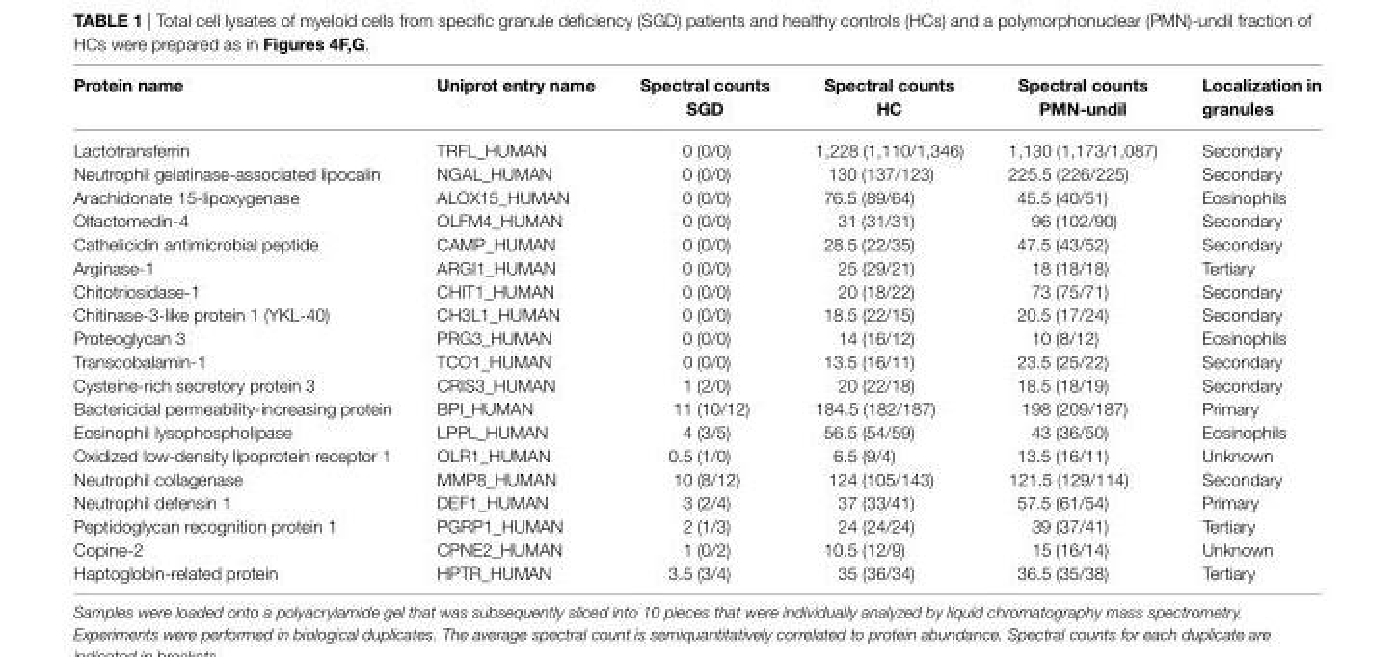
<table><thead><tr><td>Protein name</td><td>Uniprot entry name</td><td>spectral counts sgD</td><td>spectral counts hc</td><td>spectral counts PMn-undil</td><td>localization in granules</td></tr></thead><tbody><tr><td>Lactotransferrin</td><td>TRFL_HUMAN</td><td>0 (0/0)</td><td>1,228 (1,110/1,346)</td><td>1,130 (1,173/1,087)</td><td>Secondary</td></tr><tr><td>Neutrophil gelatinase-associated lipocalin</td><td>NGAL_HUMAN</td><td>0 (0/0)</td><td>130 (137/123)</td><td>225.5 (226/225)</td><td>Secondary</td></tr><tr><td>Arachidonate 15-lipoxygenase</td><td>ALOX15_HUMAN</td><td>0 (0/0)</td><td>76.5 (89/64)</td><td>45.5 (40/51)</td><td>Eosinophils</td></tr><tr><td>Olfactomedin-4</td><td>OLFM4_HUMAN</td><td>0 (0/0)</td><td>31 (31/31)</td><td>96 (102/90)</td><td>Secondary</td></tr><tr><td>Cathelicidin antimicrobial peptide</td><td>CAMP_HUMAN</td><td>0 (0/0)</td><td>28.5 (22/35)</td><td>47.5 (43/52)</td><td>Secondary</td></tr><tr><td>Arginase-1</td><td>ARGI1_HUMAN</td><td>0 (0/0)</td><td>25 (29/21)</td><td>18 (18/18)</td><td>Tertiary</td></tr><tr><td>Chitotriosidase-1</td><td>CHIT1_HUMAN</td><td>0 (0/0)</td><td>20 (18/22)</td><td>73 (75/71)</td><td>Secondary</td></tr><tr><td>Chitinase-3-like protein 1 (YKL-40)</td><td>CH3L1_HUMAN</td><td>0 (0/0)</td><td>18.5 (22/15)</td><td>20.5 (17/24)</td><td>Secondary</td></tr><tr><td>Proteoglycan 3</td><td>PRG3_HUMAN</td><td>0 (0/0)</td><td>14 (16/12)</td><td>10 (8/12)</td><td>Eosinophils</td></tr><tr><td>Transcobalamin-1</td><td>TCO1_HUMAN</td><td>0 (0/0)</td><td>13.5 (16/11)</td><td>23.5 (25/22)</td><td>Secondary</td></tr><tr><td>Cysteine-rich secretory protein 3</td><td>CRIS3_HUMAN</td><td>1 (2/0)</td><td>20 (22/18)</td><td>18.5 (18/19)</td><td>Secondary</td></tr><tr><td>Bactericidal permeability-increasing protein</td><td>BPI_HUMAN</td><td>11 (10/12)</td><td>184.5 (182/187)</td><td>198 (209/187)</td><td>Primary</td></tr><tr><td>Eosinophil lysophospholipase</td><td>LPPL_HUMAN</td><td>4 (3/5)</td><td>56.5 (54/59)</td><td>43 (36/50)</td><td>Eosinophils</td></tr><tr><td>Oxidized low-density lipoprotein receptor 1</td><td>OLR1_HUMAN</td><td>0.5 (1/0)</td><td>6.5 (9/4)</td><td>13.5 (16/11)</td><td>Unknown</td></tr><tr><td>Neutrophil collagenase</td><td>MMP8_HUMAN</td><td>10 (8/12)</td><td>124 (105/143)</td><td>121.5 (129/114)</td><td>Secondary</td></tr><tr><td>Neutrophil defensin 1</td><td>DEF1_HUMAN</td><td>3 (2/4)</td><td>37 (33/41)</td><td>57.5 (61/54)</td><td>Primary</td></tr><tr><td>Peptidoglycan recognition protein 1</td><td>PGRP1_HUMAN</td><td>2 (1/3)</td><td>24 (24/24)</td><td>39 (37/41)</td><td>Tertiary</td></tr><tr><td>Copine-2</td><td>CPNE2_HUMAN</td><td>1 (0/2)</td><td>10.5 (12/9)</td><td>15 (16/14)</td><td>Unknown</td></tr><tr><td>Haptoglobin-related protein</td><td>HPTR_HUMAN</td><td>3.5 (3/4)</td><td>35 (36/34)</td><td>36.5 (35/38)</td><td>Tertiary</td></tr></tbody></table>